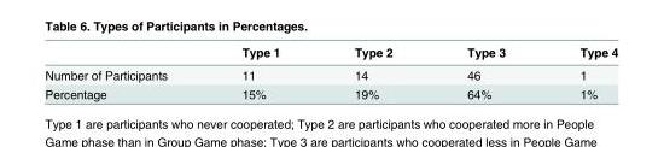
<table><thead><tr><td></td><td>Type 1</td><td>Type 2</td><td>Type 3</td><td>Type 4</td></tr></thead><tbody><tr><td>Number of Participants</td><td>11</td><td>14</td><td>46</td><td>1</td></tr><tr><td>Percentage</td><td>15%</td><td>19%</td><td>64%</td><td>1%</td></tr></tbody></table>